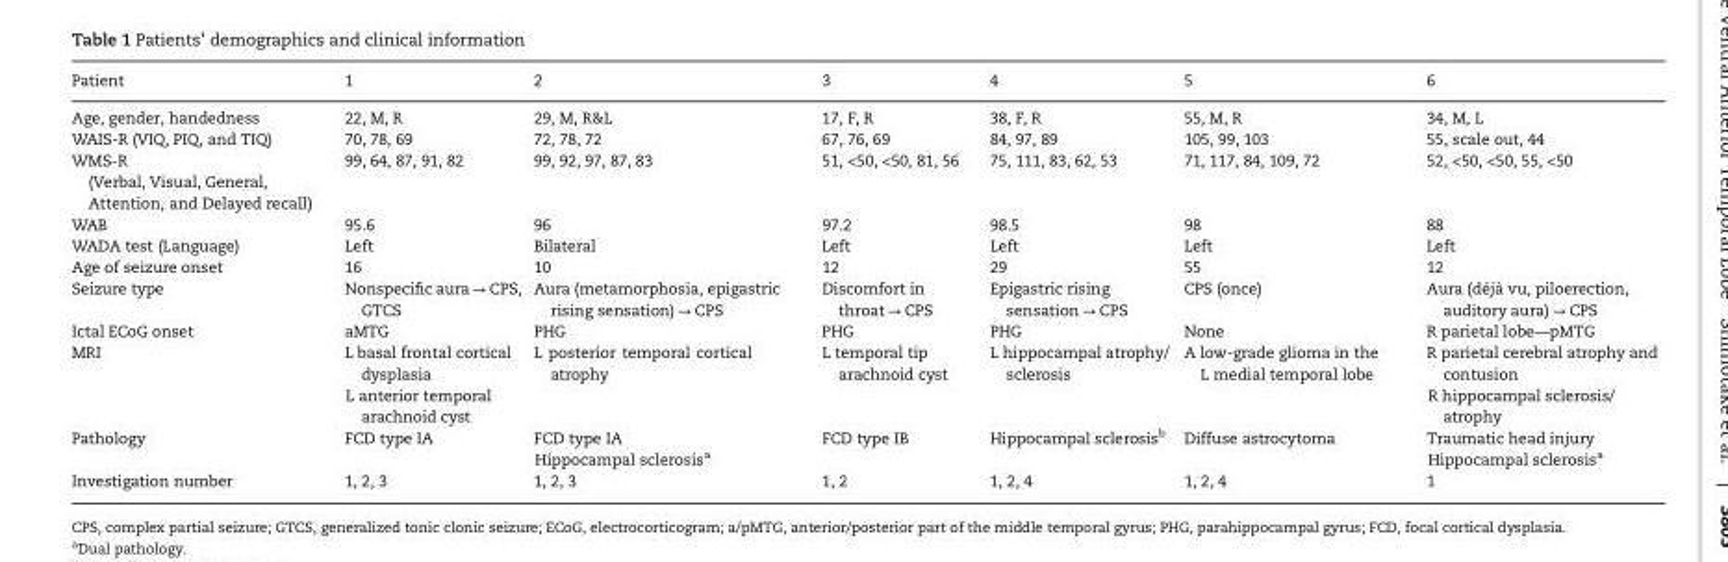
<table><thead><tr><td>Patient</td><td>1</td><td>2</td><td>3</td><td>4</td><td>5</td><td>6</td></tr></thead><tbody><tr><td>Age, gender, handedness</td><td>22, M, R</td><td>29, M, R&amp;L</td><td>17, F, R</td><td>38, F, R</td><td>55, M, R</td><td>34, M, L</td></tr><tr><td>WAIS-R (VIQ, PIQ, and TIQ)</td><td>70, 78, 69</td><td>72, 78, 72</td><td>67, 76, 69</td><td>84, 97, 89</td><td>105, 99, 103</td><td>55, scale out, 44</td></tr><tr><td>WMS-R (Verbal, Visual, General, Attention, and Delayed recall)</td><td>99, 64, 87, 91, 82</td><td>99, 92, 97, 87, 83</td><td>51, &lt;50, &lt;50, 81, 56</td><td>75, 111, 83, 62, 53</td><td>71, 117, 84, 109, 72</td><td>52, &lt;50, &lt;50, 55, &lt;50</td></tr><tr><td>WAB</td><td>95.6</td><td>96</td><td>97.2</td><td>98.5</td><td>98</td><td>88</td></tr><tr><td>WADA test (Language)</td><td>Left</td><td>Bilateral</td><td>Left</td><td>Left</td><td>Left</td><td>Left</td></tr><tr><td>Age of seizure onset</td><td>16</td><td>10</td><td>12</td><td>29</td><td>55</td><td>12</td></tr><tr><td>Seizure type</td><td>Nonspecific aura → CPS, GTCS</td><td>Aura (metamorphosia, epigastric rising sensation) → CPS</td><td>Discomfort in throat → CPS</td><td>Epigastric rising sensation → CPS</td><td>CPS (once)</td><td>Aura (déjà vu, piloerection, auditory aura) → CPS</td></tr><tr><td>Ictal ECoG onset</td><td>aMTG</td><td>PHG</td><td>PHG</td><td>PHG</td><td>None</td><td>R parietal lobe—pMTG</td></tr><tr><td>MRI</td><td>L basal frontal cortical dysplasia L anterior temporal arachnoid cyst</td><td>L posterior temporal cortical atrophy</td><td>L temporal tip arachnoid cyst</td><td>L hippocampal atrophy/ sclerosis</td><td>A low-grade glioma in the L medial temporal lobe</td><td>R parietal cerebral atrophy and contusion R hippocampal sclerosis/ atrophy</td></tr><tr><td>Pathology</td><td>FCD type IA</td><td>FCD type IA Hippocampal sclerosis<sup>a</sup></td><td>FCD type IB</td><td>Hippocampal sclerosis<sup>b</sup></td><td>Diffuse astrocytoma</td><td>Traumatic head injury Hippocampal sclerosis<sup>a</sup></td></tr><tr><td>Investigation number</td><td>1, 2, 3</td><td>1, 2, 3</td><td>1, 2</td><td>1, 2, 4</td><td>1, 2, 4</td><td>1</td></tr></tbody></table>